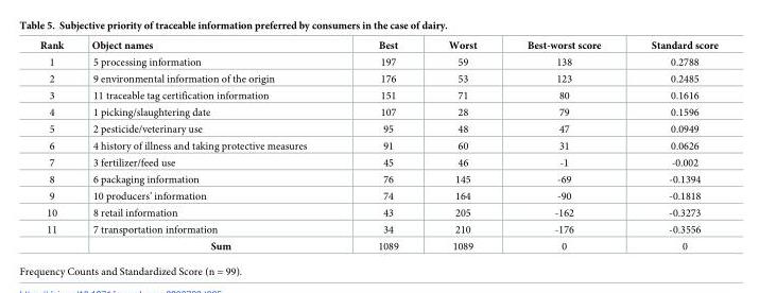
<table><thead><tr><td>Rank</td><td>Object names</td><td>Best</td><td>Worst</td><td>Best-worst score</td><td>Standard score</td></tr></thead><tbody><tr><td>1</td><td>5 processing information</td><td>197</td><td>59</td><td>138</td><td>0.2788</td></tr><tr><td>2</td><td>9 environmental information of the origin</td><td>176</td><td>53</td><td>123</td><td>0.2485</td></tr><tr><td>3</td><td>11 traceable tag certification information</td><td>151</td><td>71</td><td>80</td><td>0.1616</td></tr><tr><td>4</td><td>1 picking/slaughtering date</td><td>107</td><td>28</td><td>79</td><td>0.1596</td></tr><tr><td>5</td><td>2 pesticide/veterinary use</td><td>95</td><td>48</td><td>47</td><td>0.0949</td></tr><tr><td>6</td><td>4 history of illness and taking protective measures</td><td>91</td><td>60</td><td>31</td><td>0.0626</td></tr><tr><td>7</td><td>3 fertilizer/feed use</td><td>45</td><td>46</td><td>-1</td><td>-0.002</td></tr><tr><td>8</td><td>6 packaging information</td><td>76</td><td>145</td><td>-69</td><td>-0.1394</td></tr><tr><td>9</td><td>10 producers’ information</td><td>74</td><td>164</td><td>-90</td><td>-0.1818</td></tr><tr><td>10</td><td>8 retail information</td><td>43</td><td>205</td><td>-162</td><td>-0.3273</td></tr><tr><td rowspan="2">11</td><td>7 transportation information</td><td>34</td><td>210</td><td>-176</td><td>-0.3556</td></tr><tr><td>Sum</td><td>1089</td><td>1089</td><td>0</td><td>0</td></tr></tbody></table>